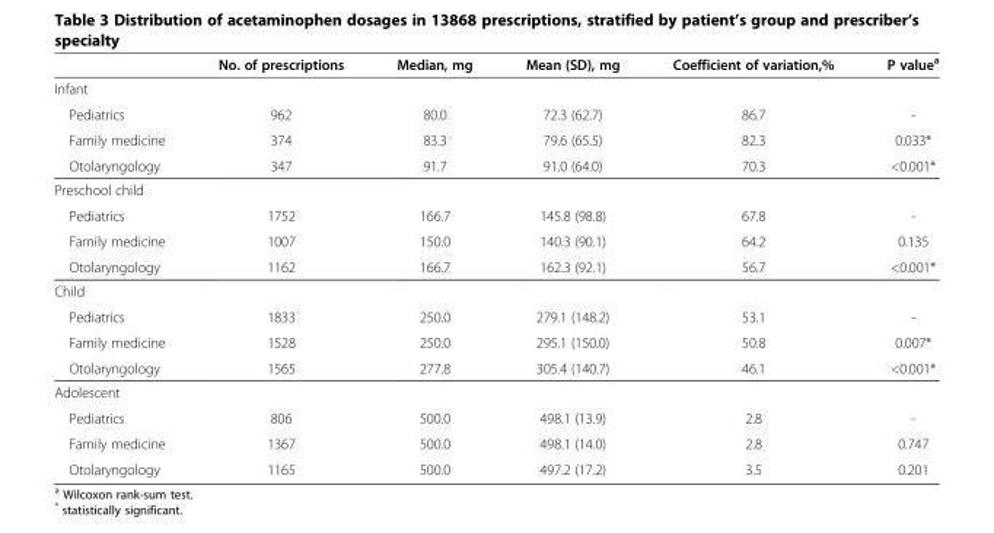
<table><thead><tr><td></td><td>No. of prescriptions</td><td>Median, mg</td><td>Mean (SD), mg</td><td>Coefficient of variation,%</td><td>P value<sup>a</sup></td></tr></thead><tbody><tr><td colspan="6">Infant</td></tr><tr><td>Pediatrics</td><td>962</td><td>80.0</td><td>72.3 (62.7)</td><td>86.7</td><td>-</td></tr><tr><td>Family medicine</td><td>374</td><td>83.3</td><td>79.6 (65.5)</td><td>82.3</td><td>0.033*</td></tr><tr><td>Otolaryngology</td><td>347</td><td>91.7</td><td>91.0 (64.0)</td><td>70.3</td><td>&lt;0.001*</td></tr><tr><td colspan="6">Preschool child</td></tr><tr><td>Pediatrics</td><td>1752</td><td>166.7</td><td>145.8 (98.8)</td><td>67.8</td><td>-</td></tr><tr><td>Family medicine</td><td>1007</td><td>150.0</td><td>140.3 (90.1)</td><td>64.2</td><td>0.135</td></tr><tr><td>Otolaryngology</td><td>1162</td><td>166.7</td><td>162.3 (92.1)</td><td>56.7</td><td>&lt;0.001*</td></tr><tr><td colspan="6">Child</td></tr><tr><td>Pediatrics</td><td>1833</td><td>250.0</td><td>279.1 (148.2)</td><td>53.1</td><td>-</td></tr><tr><td>Family medicine</td><td>1528</td><td>250.0</td><td>295.1 (150.0)</td><td>50.8</td><td>0.007*</td></tr><tr><td>Otolaryngology</td><td>1565</td><td>277.8</td><td>305.4 (140.7)</td><td>46.1</td><td>&lt;0.001*</td></tr><tr><td colspan="6">Adolescent</td></tr><tr><td>Pediatrics</td><td>806</td><td>500.0</td><td>498.1 (13.9)</td><td>2.8</td><td>-</td></tr><tr><td>Family medicine</td><td>1367</td><td>500.0</td><td>498.1 (14.0)</td><td>2.8</td><td>0.747</td></tr><tr><td>Otolaryngology</td><td>1165</td><td>500.0</td><td>497.2 (17.2)</td><td>3.5</td><td>0.201</td></tr></tbody></table>